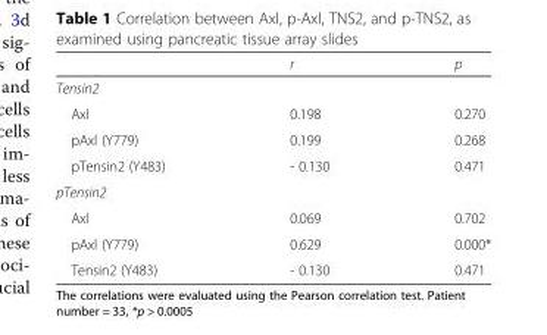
<table><thead><tr><td></td><td>r</td><td>p</td></tr></thead><tbody><tr><td colspan="3">Tensin2</td></tr><tr><td>Axl</td><td>0.198</td><td>0.270</td></tr><tr><td>pAxl (Y779)</td><td>0.199</td><td>0.268</td></tr><tr><td>pTensin2 (Y483)</td><td>- 0.130</td><td>0.471</td></tr><tr><td colspan="3">pTensin2</td></tr><tr><td>Axl</td><td>0.069</td><td>0.702</td></tr><tr><td>pAxl (Y779)</td><td>0.629</td><td>0.000*</td></tr><tr><td>Tensin2 (Y483)</td><td>- 0.130</td><td>0.471</td></tr></tbody></table>